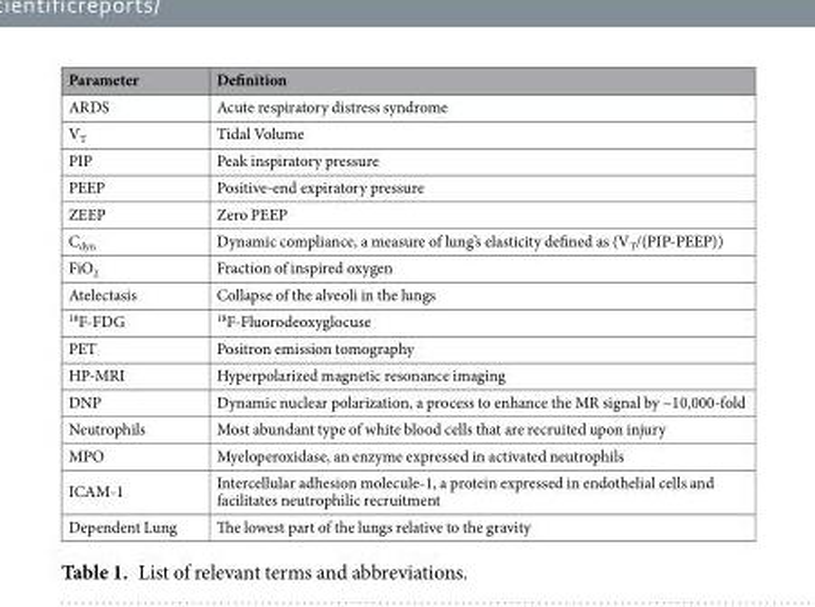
<table><thead><tr><td>Parameter</td><td>Definition</td></tr></thead><tbody><tr><td>ARDS</td><td>Acute respiratory distress syndrome</td></tr><tr><td>V<sub>T</sub></td><td>Tidal Volume</td></tr><tr><td>PIP</td><td>Peak inspiratory pressure</td></tr><tr><td>PEEP</td><td>Positive-end expiratory pressure</td></tr><tr><td>ZEEP</td><td>Zero PEEP</td></tr><tr><td>C<sub>dyn</sub></td><td>Dynamic compliance, a measure of lung’s elasticity defined as (V<sub>T</sub>/(PIP-PEEP))</td></tr><tr><td>FiO<sub>2</sub></td><td>Fraction of inspired oxygen</td></tr><tr><td>Atelectasis</td><td>Collapse of the alveoli in the lungs</td></tr><tr><td><sup>18</sup>F-FDG</td><td><sup>18</sup>F-Fluorodeoxyglocuse</td></tr><tr><td>PET</td><td>Positron emission tomography</td></tr><tr><td>HP-MRI</td><td>Hyperpolarized magnetic resonance imaging</td></tr><tr><td>DNP</td><td>Dynamic nuclear polarization, a process to enhance the MR signal by ~10,000-fold</td></tr><tr><td>Neutrophils</td><td>Most abundant type of white blood cells that are recruited upon injury</td></tr><tr><td>MPO</td><td>Myeloperoxidase, an enzyme expressed in activated neutrophils</td></tr><tr><td>ICAM-1</td><td>Intercellular adhesion molecule-1, a protein expressed in endothelial cells and facilitates neutrophilic recruitment</td></tr><tr><td>Dependent Lung</td><td>The lowest part of the lungs relative to the gravity</td></tr></tbody></table>